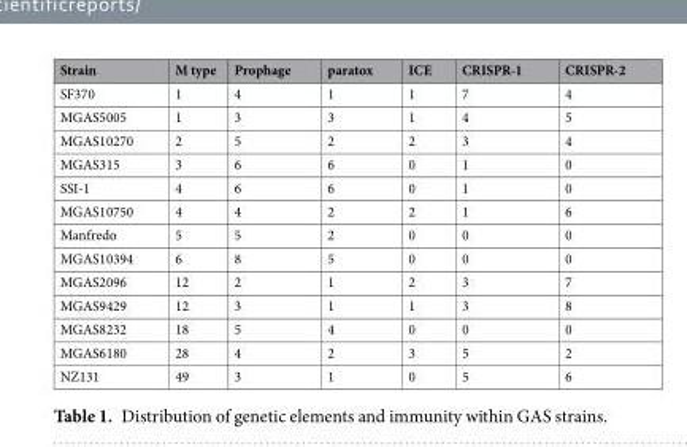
<table><thead><tr><td>Strain</td><td>M type</td><td>Prophage</td><td>paratox</td><td>ICE</td><td>CRISPR-1</td><td>CRISPR-2</td></tr></thead><tbody><tr><td>SF370</td><td>1</td><td>4</td><td>1</td><td>1</td><td>7</td><td>4</td></tr><tr><td>MGAS5005</td><td>1</td><td>3</td><td>3</td><td>1</td><td>4</td><td>5</td></tr><tr><td>MGAS10270</td><td>2</td><td>5</td><td>2</td><td>2</td><td>3</td><td>4</td></tr><tr><td>MGAS315</td><td>3</td><td>6</td><td>6</td><td>0</td><td>1</td><td>0</td></tr><tr><td>SSI-1</td><td>4</td><td>6</td><td>6</td><td>0</td><td>1</td><td>0</td></tr><tr><td>MGAS10750</td><td>4</td><td>4</td><td>2</td><td>2</td><td>1</td><td>6</td></tr><tr><td>Manfredo</td><td>5</td><td>5</td><td>2</td><td>0</td><td>0</td><td>0</td></tr><tr><td>MGAS10394</td><td>6</td><td>8</td><td>5</td><td>0</td><td>0</td><td>0</td></tr><tr><td>MGAS2096</td><td>12</td><td>2</td><td>1</td><td>2</td><td>3</td><td>7</td></tr><tr><td>MGAS9429</td><td>12</td><td>3</td><td>1</td><td>1</td><td>3</td><td>8</td></tr><tr><td>MGAS8232</td><td>18</td><td>5</td><td>4</td><td>0</td><td>0</td><td>0</td></tr><tr><td>MGAS6180</td><td>28</td><td>4</td><td>2</td><td>3</td><td>5</td><td>2</td></tr><tr><td>NZ131</td><td>49</td><td>3</td><td>1</td><td>0</td><td>5</td><td>6</td></tr></tbody></table>